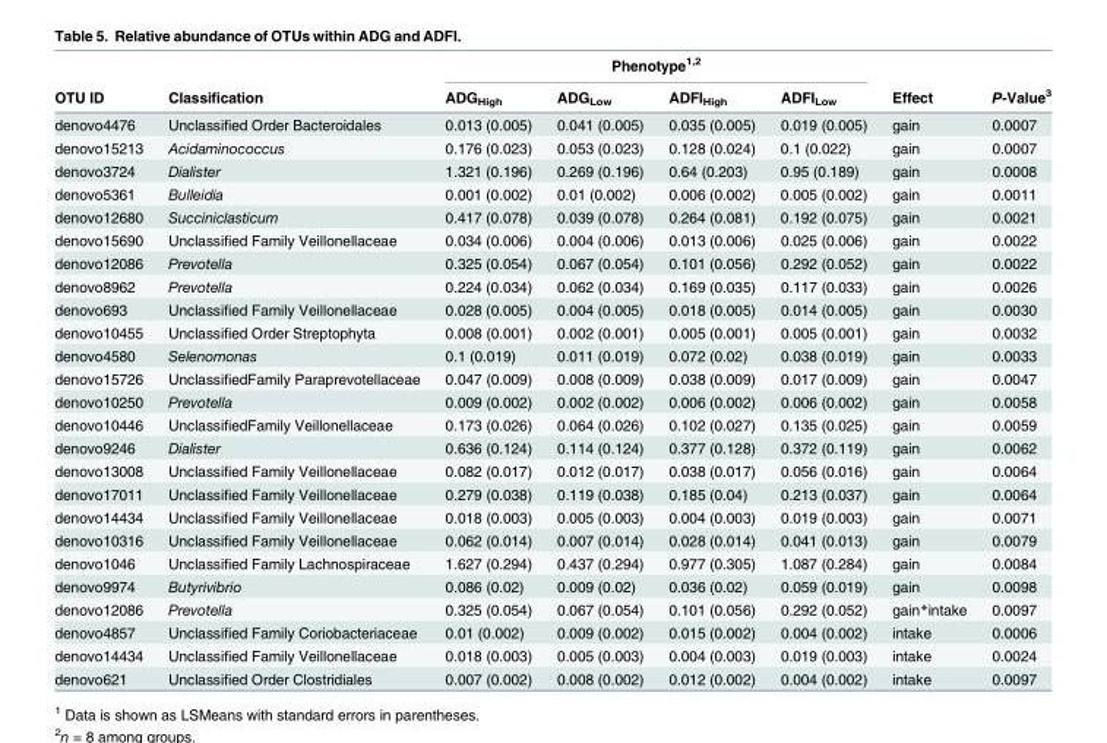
<table><thead><tr><td rowspan="2">OTU ID</td><td rowspan="2">Classification</td><td colspan="4">Phenotype<sup>1,2</sup></td><td rowspan="2">Effect</td><td rowspan="2">P-Value<sup>3</sup></td></tr><tr><td>ADG<sub>High</sub></td><td>ADG<sub>Low</sub></td><td>ADFI<sub>High</sub></td><td>ADFI<sub>Low</sub></td></tr></thead><tbody><tr><td>denovo4476</td><td>Unclassified Order Bacteroidales</td><td>0.013 (0.005)</td><td>0.041 (0.005)</td><td>0.035 (0.005)</td><td>0.019 (0.005)</td><td>gain</td><td>0.0007</td></tr><tr><td>denovo15213</td><td>Acidaminococcus</td><td>0.176 (0.023)</td><td>0.053 (0.023)</td><td>0.128 (0.024)</td><td>0.1 (0.022)</td><td>gain</td><td>0.0007</td></tr><tr><td>denovo3724</td><td>Dialister</td><td>1.321 (0.196)</td><td>0.269 (0.196)</td><td>0.64 (0.203)</td><td>0.95 (0.189)</td><td>gain</td><td>0.0008</td></tr><tr><td>denovo5361</td><td>Bulleidia</td><td>0.001 (0.002)</td><td>0.01 (0.002)</td><td>0.006 (0.002)</td><td>0.005 (0.002)</td><td>gain</td><td>0.0011</td></tr><tr><td>denovo12680</td><td>Succiniclasticum</td><td>0.417 (0.078)</td><td>0.039 (0.078)</td><td>0.264 (0.081)</td><td>0.192 (0.075)</td><td>gain</td><td>0.0021</td></tr><tr><td>denovo15690</td><td>Unclassified Family Veillonellaceae</td><td>0.034 (0.006)</td><td>0.004 (0.006)</td><td>0.013 (0.006)</td><td>0.025 (0.006)</td><td>gain</td><td>0.0022</td></tr><tr><td>denovo12086</td><td>Prevotella</td><td>0.325 (0.054)</td><td>0.067 (0.054)</td><td>0.101 (0.056)</td><td>0.292 (0.052)</td><td>gain</td><td>0.0022</td></tr><tr><td>denovo8962</td><td>Prevotella</td><td>0.224 (0.034)</td><td>0.062 (0.034)</td><td>0.169 (0.035)</td><td>0.117 (0.033)</td><td>gain</td><td>0.0026</td></tr><tr><td>denovo693</td><td>Unclassified Family Veillonellaceae</td><td>0.028 (0.005)</td><td>0.004 (0.005)</td><td>0.018 (0.005)</td><td>0.014 (0.005)</td><td>gain</td><td>0.0030</td></tr><tr><td>denovo10455</td><td>Unclassified Order Streptophyta</td><td>0.008 (0.001)</td><td>0.002 (0.001)</td><td>0.005 (0.001)</td><td>0.005 (0.001)</td><td>gain</td><td>0.0032</td></tr><tr><td>denovo4580</td><td>Selenomonas</td><td>0.1 (0.019)</td><td>0.011 (0.019)</td><td>0.072 (0.02)</td><td>0.038 (0.019)</td><td>gain</td><td>0.0033</td></tr><tr><td>denovo15726</td><td>UnclassifiedFamily Paraprevotellaceae</td><td>0.047 (0.009)</td><td>0.008 (0.009)</td><td>0.038 (0.009)</td><td>0.017 (0.009)</td><td>gain</td><td>0.0047</td></tr><tr><td>denovo10250</td><td>Prevotella</td><td>0.009 (0.002)</td><td>0.002 (0.002)</td><td>0.006 (0.002)</td><td>0.006 (0.002)</td><td>gain</td><td>0.0058</td></tr><tr><td>denovo10446</td><td>UnclassifiedFamily Veillonellaceae</td><td>0.173 (0.026)</td><td>0.064 (0.026)</td><td>0.102 (0.027)</td><td>0.135 (0.025)</td><td>gain</td><td>0.0059</td></tr><tr><td>denovo9246</td><td>Dialister</td><td>0.636 (0.124)</td><td>0.114 (0.124)</td><td>0.377 (0.128)</td><td>0.372 (0.119)</td><td>gain</td><td>0.0062</td></tr><tr><td>denovo13008</td><td>Unclassified Family Veillonellaceae</td><td>0.082 (0.017)</td><td>0.012 (0.017)</td><td>0.038 (0.017)</td><td>0.056 (0.016)</td><td>gain</td><td>0.0064</td></tr><tr><td>denovo17011</td><td>Unclassified Family Veillonellaceae</td><td>0.279 (0.038)</td><td>0.119 (0.038)</td><td>0.185 (0.04)</td><td>0.213 (0.037)</td><td>gain</td><td>0.0064</td></tr><tr><td>denovo14434</td><td>Unclassified Family Veillonellaceae</td><td>0.018 (0.003)</td><td>0.005 (0.003)</td><td>0.004 (0.003)</td><td>0.019 (0.003)</td><td>gain</td><td>0.0071</td></tr><tr><td>denovo10316</td><td>Unclassified Family Veillonellaceae</td><td>0.062 (0.014)</td><td>0.007 (0.014)</td><td>0.028 (0.014)</td><td>0.041 (0.013)</td><td>gain</td><td>0.0079</td></tr><tr><td>denovo1046</td><td>Unclassified Family Lachnospiraceae</td><td>1.627 (0.294)</td><td>0.437 (0.294)</td><td>0.977 (0.305)</td><td>1.087 (0.284)</td><td>gain</td><td>0.0084</td></tr><tr><td>denovo9974</td><td>Butyrivibrio</td><td>0.086 (0.02)</td><td>0.009 (0.02)</td><td>0.036 (0.02)</td><td>0.059 (0.019)</td><td>gain</td><td>0.0098</td></tr><tr><td>denovo12086</td><td>Prevotella</td><td>0.325 (0.054)</td><td>0.067 (0.054)</td><td>0.101 (0.056)</td><td>0.292 (0.052)</td><td>gain*intake</td><td>0.0097</td></tr><tr><td>denovo4857</td><td>Unclassified Family Coriobacteriaceae</td><td>0.01 (0.002)</td><td>0.009 (0.002)</td><td>0.015 (0.002)</td><td>0.004 (0.002)</td><td>intake</td><td>0.0006</td></tr><tr><td>denovo14434</td><td>Unclassified Family Veillonellaceae</td><td>0.018 (0.003)</td><td>0.005 (0.003)</td><td>0.004 (0.003)</td><td>0.019 (0.003)</td><td>intake</td><td>0.0024</td></tr><tr><td>denovo621</td><td>Unclassified Order Clostridiales</td><td>0.007 (0.002)</td><td>0.008 (0.002)</td><td>0.012 (0.002)</td><td>0.004 (0.002)</td><td>intake</td><td>0.0097</td></tr></tbody></table>